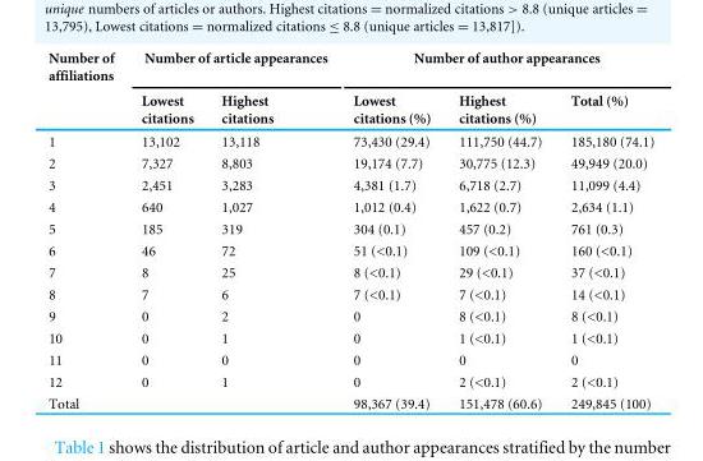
<table><thead><tr><td rowspan="2">Number of affiliations</td><td colspan="2">Number of article appearances</td><td colspan="3">Number of author appearances</td></tr><tr><td>Lowest citations</td><td>Highest citations</td><td>Lowest citations (%)</td><td>Highest citations (%)</td><td>Total (%)</td></tr></thead><tbody><tr><td>1</td><td>13,102</td><td>13,118</td><td>73,430 (29.4)</td><td>111,750 (44.7)</td><td>185,180 (74.1)</td></tr><tr><td>2</td><td>7,327</td><td>8,803</td><td>19,174 (7.7)</td><td>30,775 (12.3)</td><td>49,949 (20.0)</td></tr><tr><td>3</td><td>2,451</td><td>3,283</td><td>4,381 (1.7)</td><td>6,718 (2.7)</td><td>11,099 (4.4)</td></tr><tr><td>4</td><td>640</td><td>1,027</td><td>1,012 (0.4)</td><td>1,622 (0.7)</td><td>2,634 (1.1)</td></tr><tr><td>5</td><td>185</td><td>319</td><td>304 (0.1)</td><td>457 (0.2)</td><td>761 (0.3)</td></tr><tr><td>6</td><td>46</td><td>72</td><td>51 (&lt;0.1)</td><td>109 (&lt;0.1)</td><td>160 (&lt;0.1)</td></tr><tr><td>7</td><td>8</td><td>25</td><td>8 (&lt;0.1)</td><td>29 (&lt;0.1)</td><td>37 (&lt;0.1)</td></tr><tr><td>8</td><td>7</td><td>6</td><td>7 (&lt;0.1)</td><td>7 (&lt;0.1)</td><td>14 (&lt;0.1)</td></tr><tr><td>9</td><td>0</td><td>2</td><td>0</td><td>8 (&lt;0.1)</td><td>8 (&lt;0.1)</td></tr><tr><td>10</td><td>0</td><td>1</td><td>0</td><td>1 (&lt;0.1)</td><td>1 (&lt;0.1)</td></tr><tr><td>11</td><td>0</td><td>0</td><td>0</td><td>0</td><td>0</td></tr><tr><td>12</td><td>0</td><td>1</td><td>0</td><td>2 (&lt;0.1)</td><td>2 (&lt;0.1)</td></tr><tr><td>Total</td><td></td><td></td><td>98,367 (39.4)</td><td>151,478 (60.6)</td><td>249,845 (100)</td></tr></tbody></table>